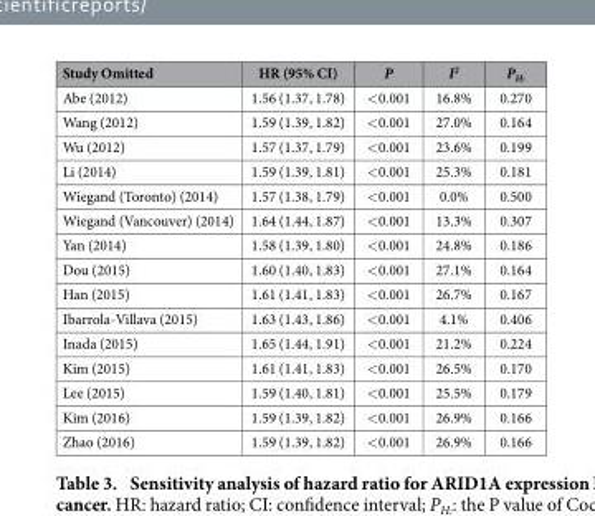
<table><thead><tr><td>Study Omitted</td><td>HR (95% CI)</td><td>P</td><td>I<sup>2</sup></td><td>P<sub>H:</sub></td></tr></thead><tbody><tr><td>Abe (2012)</td><td>1.56 (1.37, 1.78)</td><td>&lt; 0.001</td><td>16.8%</td><td>0.270</td></tr><tr><td>Wang (2012)</td><td>1.59 (1.39, 1.82)</td><td>&lt; 0.001</td><td>27.0%</td><td>0.164</td></tr><tr><td>Wu (2012)</td><td>1.57 (1.37, 1.79)</td><td>&lt; 0.001</td><td>23.6%</td><td>0.199</td></tr><tr><td>Li (2014)</td><td>1.59 (1.39, 1.81)</td><td>&lt; 0.001</td><td>25.3%</td><td>0.181</td></tr><tr><td>Wiegand (Toronto) (2014)</td><td>1.57 (1.38, 1.79)</td><td>&lt; 0.001</td><td>0.0%</td><td>0.500</td></tr><tr><td>Wiegand (Vancouver) (2014)</td><td>1.64 (1.44, 1.87)</td><td>&lt; 0.001</td><td>13.3%</td><td>0.307</td></tr><tr><td>Yan (2014)</td><td>1.58 (1.39, 1.80)</td><td>&lt; 0.001</td><td>24.8%</td><td>0.186</td></tr><tr><td>Dou (2015)</td><td>1.60 (1.40, 1.83)</td><td>&lt; 0.001</td><td>27.1%</td><td>0.164</td></tr><tr><td>Han (2015)</td><td>1.61 (1.41, 1.83)</td><td>&lt; 0.001</td><td>26.7%</td><td>0.167</td></tr><tr><td>Ibarrola-Villava (2015)</td><td>1.63 (1.43, 1.86)</td><td>&lt; 0.001</td><td>4.1%</td><td>0.406</td></tr><tr><td>Inada (2015)</td><td>1.65 (1.44, 1.91)</td><td>&lt; 0.001</td><td>21.2%</td><td>0.224</td></tr><tr><td>Kim (2015)</td><td>1.61 (1.41, 1.83)</td><td>&lt; 0.001</td><td>26.5%</td><td>0.170</td></tr><tr><td>Lee (2015)</td><td>1.59 (1.40, 1.81)</td><td>&lt; 0.001</td><td>25.5%</td><td>0.179</td></tr><tr><td>Kim (2016)</td><td>1.59 (1.39, 1.82)</td><td>&lt; 0.001</td><td>26.9%</td><td>0.166</td></tr><tr><td>Zhao (2016)</td><td>1.59 (1.39, 1.82)</td><td>&lt; 0.001</td><td>26.9%</td><td>0.166</td></tr></tbody></table>